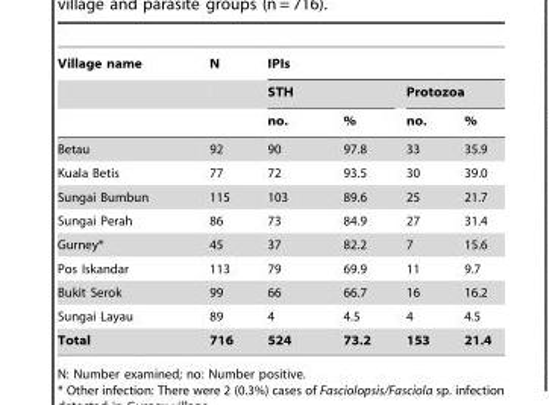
<table><thead><tr><td rowspan="3">Village name</td><td rowspan="3">N</td><td colspan="4">IPIs</td></tr><tr><td colspan="2">STH</td><td colspan="2">Protozoa</td></tr><tr><td>no.</td><td>%</td><td>no.</td><td>%</td></tr></thead><tbody><tr><td>Betau</td><td>92</td><td>90</td><td>97.8</td><td>33</td><td>35.9</td></tr><tr><td>Kuala Betis</td><td>77</td><td>72</td><td>93.5</td><td>30</td><td>39.0</td></tr><tr><td>Sungai Bumbun</td><td>115</td><td>103</td><td>89.6</td><td>25</td><td>21.7</td></tr><tr><td>Sungai Perah</td><td>86</td><td>73</td><td>84.9</td><td>27</td><td>31.4</td></tr><tr><td>Gurney*</td><td>45</td><td>37</td><td>82.2</td><td>7</td><td>15.6</td></tr><tr><td>Pos Iskandar</td><td>113</td><td>79</td><td>69.9</td><td>11</td><td>9.7</td></tr><tr><td>Bukit Serok</td><td>99</td><td>66</td><td>66.7</td><td>16</td><td>16.2</td></tr><tr><td>Sungai Layau</td><td>89</td><td>4</td><td>4.5</td><td>4</td><td>4.5</td></tr><tr><td>Total</td><td>716</td><td>524</td><td>73.2</td><td>153</td><td>21.4</td></tr></tbody></table>